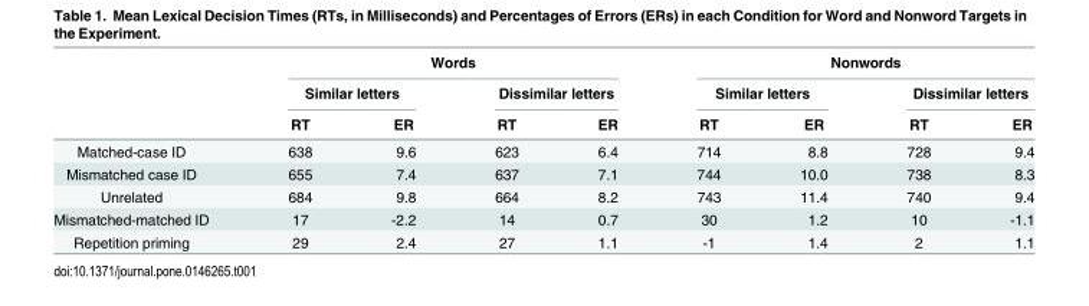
<table><thead><tr><td rowspan="3"></td><td colspan="4">Words</td><td colspan="4">Nonwords</td></tr><tr><td colspan="2">Similar letters</td><td colspan="2">Dissimilar letters</td><td colspan="2">Similar letters</td><td colspan="2">Dissimilar letters</td></tr><tr><td>RT</td><td>ER</td><td>RT</td><td>ER</td><td>RT</td><td>ER</td><td>RT</td><td>ER</td></tr></thead><tbody><tr><td>Matched-case ID</td><td>638</td><td>9.6</td><td>623</td><td>6.4</td><td>714</td><td>8.8</td><td>728</td><td>9.4</td></tr><tr><td>Mismatched case ID</td><td>655</td><td>7.4</td><td>637</td><td>7.1</td><td>744</td><td>10.0</td><td>738</td><td>8.3</td></tr><tr><td>Unrelated</td><td>684</td><td>9.8</td><td>664</td><td>8.2</td><td>743</td><td>11.4</td><td>740</td><td>9.4</td></tr><tr><td>Mismatched-matched ID</td><td>17</td><td>-2.2</td><td>14</td><td>0.7</td><td>30</td><td>1.2</td><td>10</td><td>-1.1</td></tr><tr><td>Repetition priming</td><td>29</td><td>2.4</td><td>27</td><td>1.1</td><td>-1</td><td>1.4</td><td>2</td><td>1.1</td></tr></tbody></table>